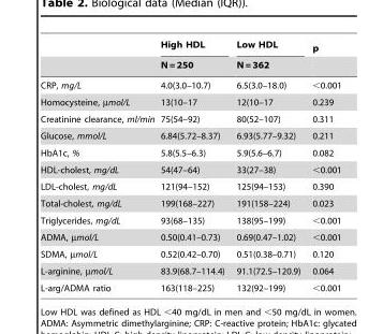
<table><thead><tr><td rowspan="2"></td><td rowspan="2">High HDL N = 250</td><td rowspan="2">Low HDL N = 362</td><td rowspan="2">p</td></tr><tr></tr></thead><tbody><tr><td>CRP, mg/L</td><td>4.0(3.0–10.7)</td><td>6.5(3.0–18.0)</td><td>&lt;0.001</td></tr><tr><td>Homocysteine, µmol/L</td><td>13(10–17</td><td>12(10–17</td><td>0.239</td></tr><tr><td>Creatinine clearance, ml/min</td><td>75(54–92)</td><td>80(52–107)</td><td>0.311</td></tr><tr><td>Glucose, mmol/L</td><td>6.84(5.72–8.37)</td><td>6.93(5.77–9.32)</td><td>0.211</td></tr><tr><td>HbA1c, %</td><td>5.8(5.5–6.3)</td><td>5.9(5.6–6.7)</td><td>0.082</td></tr><tr><td>HDL-cholest, mg/dL</td><td>54(47–64)</td><td>33(27–38)</td><td>&lt;0.001</td></tr><tr><td>LDL-cholest, mg/dL</td><td>121(94–152)</td><td>125(94–153)</td><td>0.390</td></tr><tr><td>Total-cholest, mg/dL</td><td>199(168–227)</td><td>191(158–224)</td><td>0.023</td></tr><tr><td>Triglycerides, mg/dL</td><td>93(68–135)</td><td>138(95–199)</td><td>&lt;0.001</td></tr><tr><td>ADMA, µmol/L</td><td>0.50(0.41–0.73)</td><td>0.69(0.47–1.02)</td><td>&lt;0.001</td></tr><tr><td>SDMA, µmol/L</td><td>0.52(0.42–0.70)</td><td>0.51(0.38–0.71)</td><td>0.120</td></tr><tr><td>L-arginine, µmol/L</td><td>83.9(68.7–114.4)</td><td>91.1(72.5–120.9)</td><td>0.064</td></tr><tr><td>L-arg/ADMA ratio</td><td>163(118–225)</td><td>132(92–199)</td><td>&lt;0.001</td></tr></tbody></table>